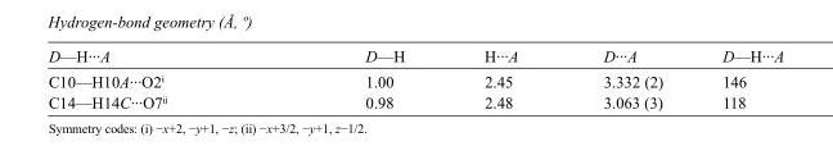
<table><tbody><tr><td>D—H···A</td><td>D—H</td><td>H···A</td><td>D···A</td><td>D—H···A</td></tr><tr><td>C10—H10A···O2<sup>i</sup></td><td>1.00</td><td>2.45</td><td>3.332 (2)</td><td>146</td></tr><tr><td>C14—H14C···O7<sup>ii</sup></td><td>0.98</td><td>2.48</td><td>3.063 (3)</td><td>118</td></tr></tbody></table>